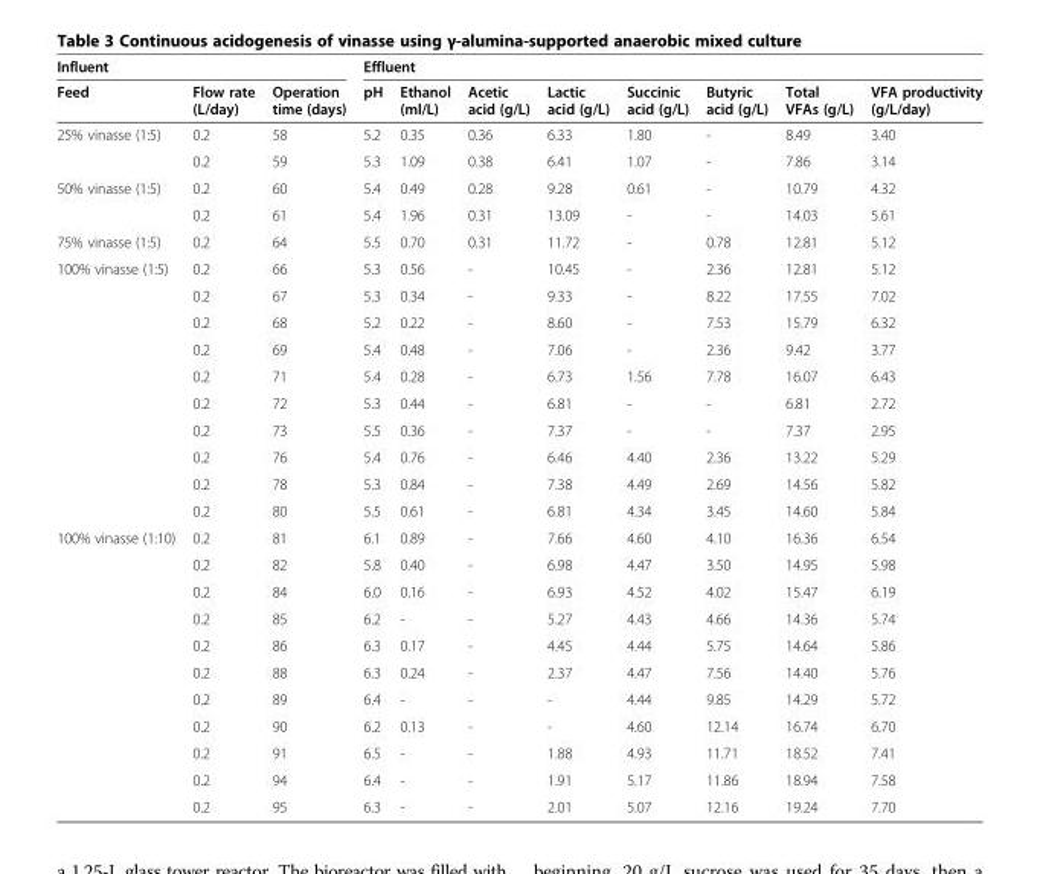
<table><thead><tr><td colspan="3">Influent</td><td colspan="8">Effluent</td></tr><tr><td>Feed</td><td>Flow rate (L/day)</td><td>Operation time (days)</td><td>pH</td><td>Ethanol (ml/L)</td><td>Acetic acid (g/L)</td><td>Lactic acid (g/L)</td><td>Succinic acid (g/L)</td><td>Butyric acid (g/L)</td><td>Total VFAs (g/L)</td><td>VFA productivity (g/L/day)</td></tr></thead><tbody><tr><td rowspan="2">25% vinasse (1:5)</td><td>0.2</td><td>58</td><td>5.2</td><td>0.35</td><td>0.36</td><td>6.33</td><td>1.80</td><td>-</td><td>8.49</td><td>3.40</td></tr><tr><td>0.2</td><td>59</td><td>5.3</td><td>1.09</td><td>0.38</td><td>6.41</td><td>1.07</td><td>-</td><td>7.86</td><td>3.14</td></tr><tr><td rowspan="2">50% vinasse (1:5)</td><td>0.2</td><td>60</td><td>5.4</td><td>0.49</td><td>0.28</td><td>9.28</td><td>0.61</td><td>-</td><td>10.79</td><td>4.32</td></tr><tr><td>0.2</td><td>61</td><td>5.4</td><td>1.96</td><td>0.31</td><td>13.09</td><td>-</td><td>-</td><td>14.03</td><td>5.61</td></tr><tr><td>75% vinasse (1:5)</td><td>0.2</td><td>64</td><td>5.5</td><td>0.70</td><td>0.31</td><td>11.72</td><td>-</td><td>0.78</td><td>12.81</td><td>5.12</td></tr><tr><td rowspan="10">100% vinasse (1:5)</td><td>0.2</td><td>66</td><td>5.3</td><td>0.56</td><td>-</td><td>10.45</td><td>-</td><td>2.36</td><td>12.81</td><td>5.12</td></tr><tr><td>0.2</td><td>67</td><td>5.3</td><td>0.34</td><td>-</td><td>9.33</td><td>-</td><td>8.22</td><td>17.55</td><td>7.02</td></tr><tr><td>0.2</td><td>68</td><td>5.2</td><td>0.22</td><td>-</td><td>8.60</td><td>-</td><td>7.53</td><td>15.79</td><td>6.32</td></tr><tr><td>0.2</td><td>69</td><td>5.4</td><td>0.48</td><td>-</td><td>7.06</td><td>-</td><td>2.36</td><td>9.42</td><td>3.77</td></tr><tr><td>0.2</td><td>71</td><td>5.4</td><td>0.28</td><td>-</td><td>6.73</td><td>1.56</td><td>7.78</td><td>16.07</td><td>6.43</td></tr><tr><td>0.2</td><td>72</td><td>5.3</td><td>0.44</td><td>-</td><td>6.81</td><td>-</td><td>-</td><td>6.81</td><td>2.72</td></tr><tr><td>0.2</td><td>73</td><td>5.5</td><td>0.36</td><td>-</td><td>7.37</td><td>-</td><td>-</td><td>7.37</td><td>2.95</td></tr><tr><td>0.2</td><td>76</td><td>5.4</td><td>0.76</td><td>-</td><td>6.46</td><td>4.40</td><td>2.36</td><td>13.22</td><td>5.29</td></tr><tr><td>0.2</td><td>78</td><td>5.3</td><td>0.84</td><td>-</td><td>7.38</td><td>4.49</td><td>2.69</td><td>14.56</td><td>5.82</td></tr><tr><td>0.2</td><td>80</td><td>5.5</td><td>0.61</td><td>-</td><td>6.81</td><td>4.34</td><td>3.45</td><td>14.60</td><td>5.84</td></tr><tr><td rowspan="11">100% vinasse (1:10)</td><td>0.2</td><td>81</td><td>6.1</td><td>0.89</td><td>-</td><td>7.66</td><td>4.60</td><td>4.10</td><td>16.36</td><td>6.54</td></tr><tr><td>0.2</td><td>82</td><td>5.8</td><td>0.40</td><td>-</td><td>6.98</td><td>4.47</td><td>3.50</td><td>14.95</td><td>5.98</td></tr><tr><td>0.2</td><td>84</td><td>6.0</td><td>0.16</td><td>-</td><td>6.93</td><td>4.52</td><td>4.02</td><td>15.47</td><td>6.19</td></tr><tr><td>0.2</td><td>85</td><td>6.2</td><td>-</td><td>-</td><td>5.27</td><td>4.43</td><td>4.66</td><td>14.36</td><td>5.74</td></tr><tr><td>0.2</td><td>86</td><td>6.3</td><td>0.17</td><td>-</td><td>4.45</td><td>4.44</td><td>5.75</td><td>14.64</td><td>5.86</td></tr><tr><td>0.2</td><td>88</td><td>6.3</td><td>0.24</td><td>-</td><td>2.37</td><td>4.47</td><td>7.56</td><td>14.40</td><td>5.76</td></tr><tr><td>0.2</td><td>89</td><td>6.4</td><td>-</td><td>-</td><td>-</td><td>4.44</td><td>9.85</td><td>14.29</td><td>5.72</td></tr><tr><td>0.2</td><td>90</td><td>6.2</td><td>0.13</td><td>-</td><td>-</td><td>4.60</td><td>12.14</td><td>16.74</td><td>6.70</td></tr><tr><td>0.2</td><td>91</td><td>6.5</td><td>-</td><td>-</td><td>1.88</td><td>4.93</td><td>11.71</td><td>18.52</td><td>7.41</td></tr><tr><td>0.2</td><td>94</td><td>6.4</td><td>-</td><td>-</td><td>1.91</td><td>5.17</td><td>11.86</td><td>18.94</td><td>7.58</td></tr><tr><td>0.2</td><td>95</td><td>6.3</td><td>-</td><td>-</td><td>2.01</td><td>5.07</td><td>12.16</td><td>19.24</td><td>7.70</td></tr></tbody></table>